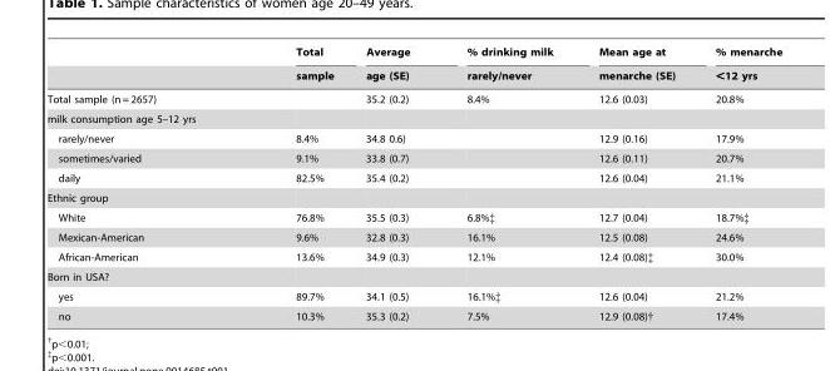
<table><thead><tr><td rowspan="2"></td><td rowspan="2">Total sample</td><td rowspan="2">Average age (SE)</td><td rowspan="2">% drinking milk rarely/never</td><td rowspan="2">Mean age at menarche (SE)</td><td rowspan="2">% menarche &lt;12 yrs</td></tr><tr></tr></thead><tbody><tr><td>Total sample (n = 2657)</td><td></td><td>35.2 (0.2)</td><td>8.4%</td><td>12.6 (0.03)</td><td>20.8%</td></tr><tr><td colspan="6">milk consumption age 5–12 yrs</td></tr><tr><td>rarely/never</td><td>8.4%</td><td>34.8 0.6)</td><td></td><td>12.9 (0.16)</td><td>17.9%</td></tr><tr><td>sometimes/varied</td><td>9.1%</td><td>33.8 (0.7)</td><td></td><td>12.6 (0.11)</td><td>20.7%</td></tr><tr><td>daily</td><td>82.5%</td><td>35.4 (0.2)</td><td></td><td>12.6 (0.04)</td><td>21.1%</td></tr><tr><td colspan="6">Ethnic group</td></tr><tr><td>White</td><td>76.8%</td><td>35.5 (0.3)</td><td>6.8%‡</td><td>12.7 (0.04)</td><td>18.7%‡</td></tr><tr><td>Mexican-American</td><td>9.6%</td><td>32.8 (0.3)</td><td>16.1%</td><td>12.5 (0.08)</td><td>24.6%</td></tr><tr><td>African-American</td><td>13.6%</td><td>34.9 (0.3)</td><td>12.1%</td><td>12.4 (0.08)‡</td><td>30.0%</td></tr><tr><td colspan="6">Born in USA?</td></tr><tr><td>yes</td><td>89.7%</td><td>34.1 (0.5)</td><td>16.1%‡</td><td>12.6 (0.04)</td><td>21.2%</td></tr><tr><td>no</td><td>10.3%</td><td>35.3 (0.2)</td><td>7.5%</td><td>12.9 (0.08)†</td><td>17.4%</td></tr></tbody></table>